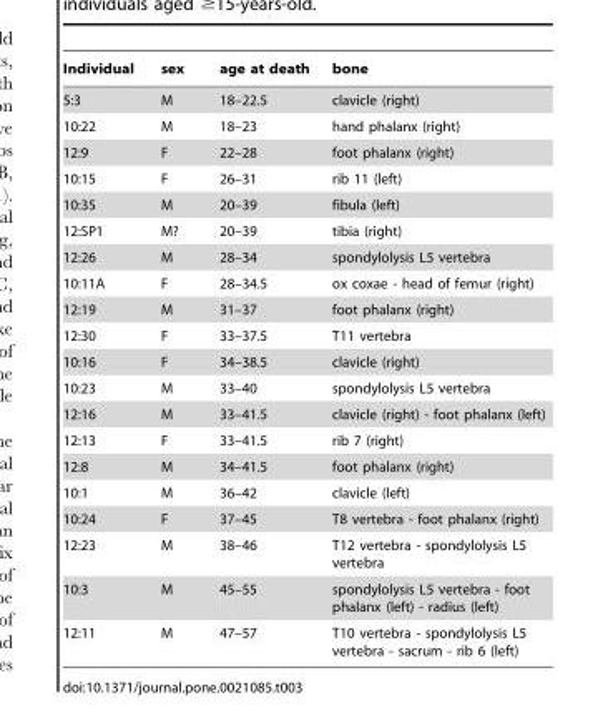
<table><thead><tr><td>Individual</td><td>sex</td><td>age at death</td><td>bone</td></tr></thead><tbody><tr><td>5:3</td><td>M</td><td>18–22.5</td><td>clavicle (right)</td></tr><tr><td>10:22</td><td>M</td><td>18–23</td><td>hand phalanx (right)</td></tr><tr><td>12:9</td><td>F</td><td>22–28</td><td>foot phalanx (right)</td></tr><tr><td>10:15</td><td>F</td><td>26–31</td><td>rib 11 (left)</td></tr><tr><td>10:35</td><td>M</td><td>20–39</td><td>fibula (left)</td></tr><tr><td>12:SP1</td><td>M?</td><td>20–39</td><td>tibia (right)</td></tr><tr><td>12:26</td><td>M</td><td>28–34</td><td>spondylolysis L5 vertebra</td></tr><tr><td>10:11A</td><td>F</td><td>28–34.5</td><td>ox coxae - head of femur (right)</td></tr><tr><td>12:19</td><td>M</td><td>31–37</td><td>foot phalanx (right)</td></tr><tr><td>12:30</td><td>F</td><td>33–37.5</td><td>T11 vertebra</td></tr><tr><td>10:16</td><td>F</td><td>34–38.5</td><td>clavicle (right)</td></tr><tr><td>10:23</td><td>M</td><td>33–40</td><td>spondylolysis L5 vertebra</td></tr><tr><td>12:16</td><td>M</td><td>33–41.5</td><td>clavicle (right) - foot phalanx (left)</td></tr><tr><td>12:13</td><td>F</td><td>33–41.5</td><td>rib 7 (right)</td></tr><tr><td>12:8</td><td>M</td><td>34–41.5</td><td>foot phalanx (right)</td></tr><tr><td>10:1</td><td>M</td><td>36–42</td><td>clavicle (left)</td></tr><tr><td>10:24</td><td>F</td><td>37–45</td><td>T8 vertebra - foot phalanx (right)</td></tr><tr><td>12:23</td><td>M</td><td>38–46</td><td>T12 vertebra - spondylolysis L5 vertebra</td></tr><tr><td>10:3</td><td>M</td><td>45–55</td><td>spondylolysis L5 vertebra - foot phalanx (left) - radius (left)</td></tr><tr><td>12:11</td><td>M</td><td>47–57</td><td>T10 vertebra - spondylolysis L5 vertebra - sacrum - rib 6 (left)</td></tr></tbody></table>